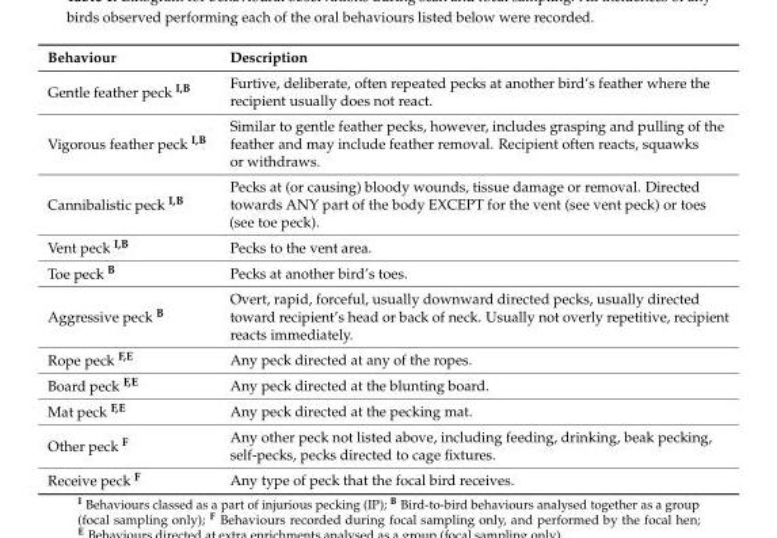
<table><thead><tr><td>Behaviour</td><td>Description</td></tr></thead><tbody><tr><td>Gentle feather peck <sup>I,B</sup></td><td>Furtive, deliberate, often repeated pecks at another bird’s feather where the recipient usually does not react.</td></tr><tr><td>Vigorous feather peck <sup>I,B</sup></td><td>Similar to gentle feather pecks, however, includes grasping and pulling of the feather and may include feather removal. Recipient often reacts, squawks or withdraws.</td></tr><tr><td>Cannibalistic peck <sup>I,B</sup></td><td>Pecks at (or causing) bloody wounds, tissue damage or removal. Directed towards ANY part of the body EXCEPT for the vent (see vent peck) or toes (see toe peck).</td></tr><tr><td>Vent peck <sup>I,B</sup></td><td>Pecks to the vent area.</td></tr><tr><td>Toe peck <sup>B</sup></td><td>Pecks at another bird’s toes.</td></tr><tr><td>Aggressive peck <sup>B</sup></td><td>Overt, rapid, forceful, usually downward directed pecks, usually directed toward recipient’s head or back of neck. Usually not overly repetitive, recipient reacts immediately.</td></tr><tr><td>Rope peck <sup>F,E</sup></td><td>Any peck directed at any of the ropes.</td></tr><tr><td>Board peck <sup>F,E</sup></td><td>Any peck directed at the blunting board.</td></tr><tr><td>Mat peck <sup>F,E</sup></td><td>Any peck directed at the pecking mat.</td></tr><tr><td>Other peck <sup>F</sup></td><td>Any other peck not listed above, including feeding, drinking, beak pecking, self-pecks, pecks directed to cage fixtures.</td></tr><tr><td>Receive peck <sup>F</sup></td><td>Any type of peck that the focal bird receives.</td></tr></tbody></table>